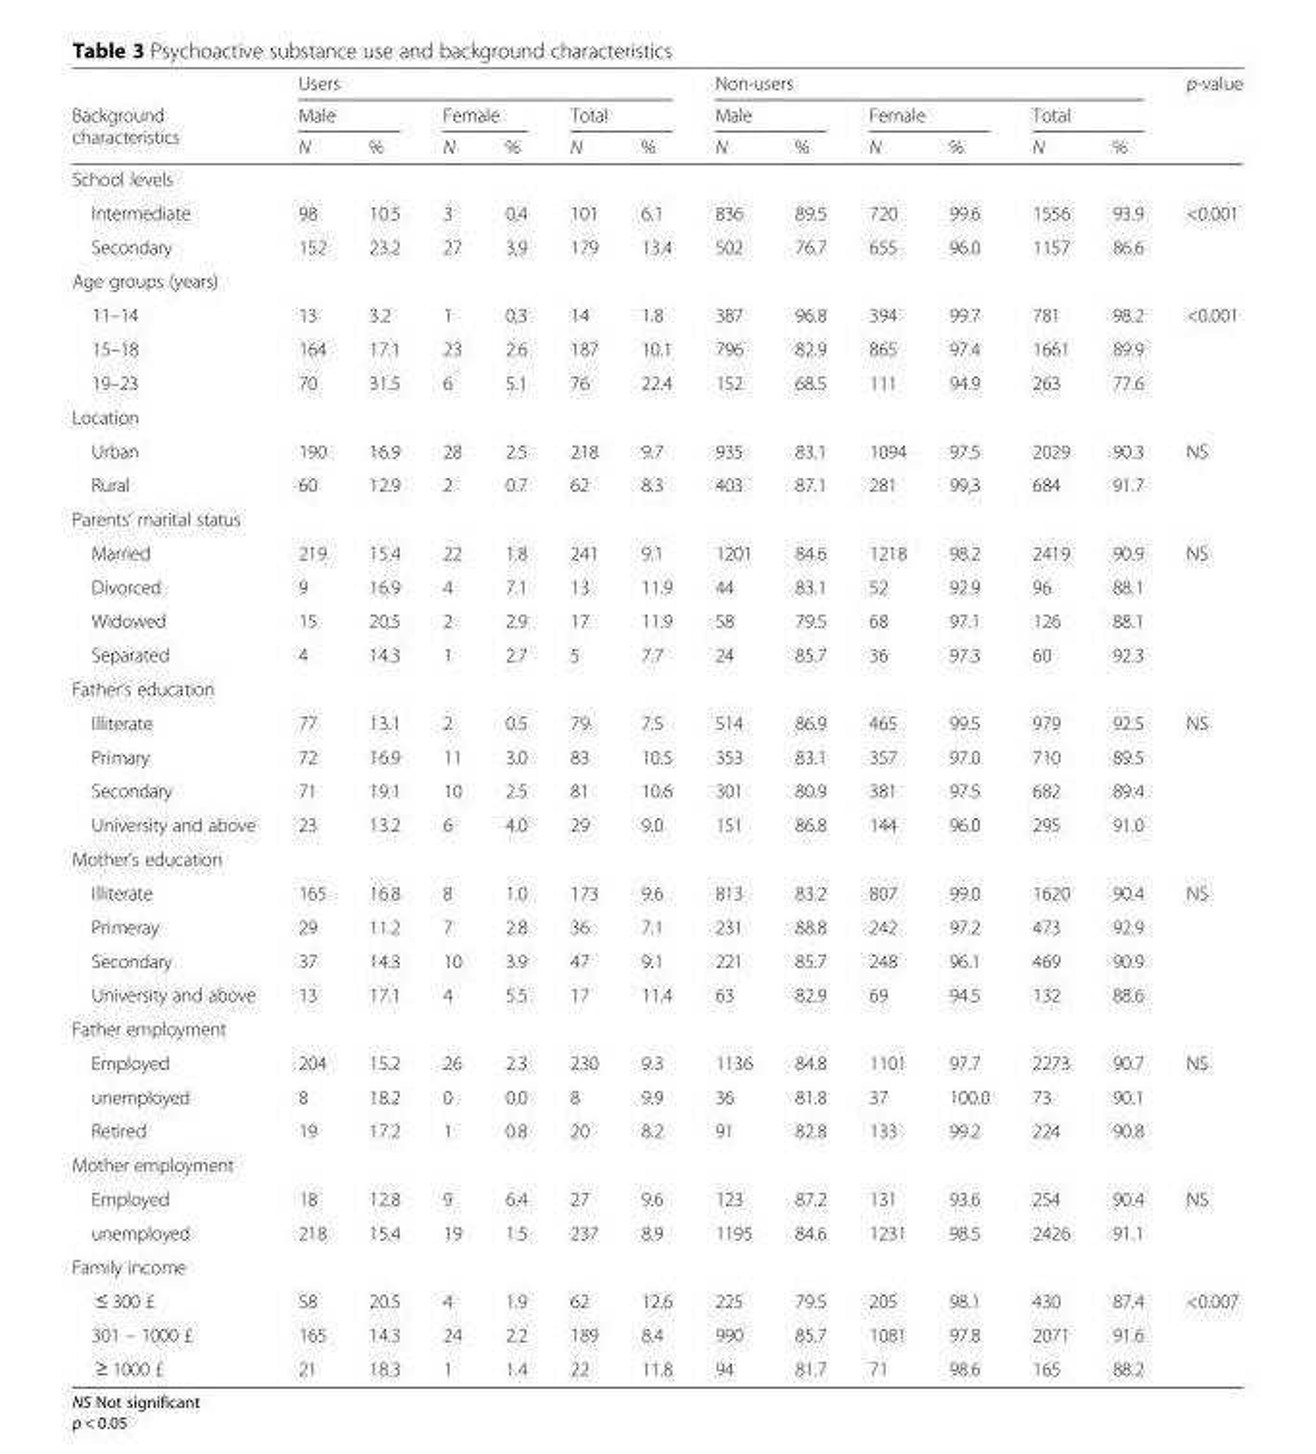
<table><thead><tr><td rowspan="3">Background characteristics</td><td colspan="6">Users</td><td colspan="6">Non-users</td><td rowspan="3">p-value</td></tr><tr><td colspan="2">Male</td><td colspan="2">Female</td><td colspan="2">Total</td><td colspan="2">Male</td><td colspan="2">Female</td><td colspan="2">Total</td></tr><tr><td>N</td><td>%</td><td>N</td><td>%</td><td>N</td><td>%</td><td>N</td><td>%</td><td>N</td><td>%</td><td>N</td><td>%</td></tr></thead><tbody><tr><td colspan="14">School levels</td></tr><tr><td>Intermediate</td><td>98</td><td>10.5</td><td>3</td><td>0,4</td><td>101</td><td>6.1</td><td>836</td><td>89.5</td><td>720</td><td>99.6</td><td>1556</td><td>93.9</td><td>&lt;0.001</td></tr><tr><td>Secondary</td><td>152</td><td>23.2</td><td>27</td><td>3,9</td><td>179</td><td>13.4</td><td>502</td><td>76.7</td><td>655</td><td>96.0</td><td>1157</td><td>86.6</td><td></td></tr><tr><td colspan="14">Age groups (years)</td></tr><tr><td>11–14</td><td>13</td><td>3.2</td><td>1</td><td>0,3</td><td>14</td><td>1.8</td><td>387</td><td>96.8</td><td>394</td><td>99.7</td><td>781</td><td>98.2</td><td>&lt;0.001</td></tr><tr><td>15–18</td><td>164</td><td>17.1</td><td>23</td><td>2.6</td><td>187</td><td>10.1</td><td>796</td><td>82.9</td><td>865</td><td>97.4</td><td>1661</td><td>89.9</td><td></td></tr><tr><td>19–23</td><td>70</td><td>31.5</td><td>6</td><td>5.1</td><td>76</td><td>22.4</td><td>152</td><td>68.5</td><td>111</td><td>94.9</td><td>263</td><td>77.6</td><td></td></tr><tr><td colspan="14">Location</td></tr><tr><td>Urban</td><td>190</td><td>16.9</td><td>28</td><td>2.5</td><td>218</td><td>9.7</td><td>935</td><td>83.1</td><td>1094</td><td>97.5</td><td>2029</td><td>90.3</td><td>NS</td></tr><tr><td>Rural</td><td>60</td><td>12.9</td><td>2</td><td>0.7</td><td>62</td><td>8.3</td><td>403</td><td>87.1</td><td>281</td><td>99,3</td><td>684</td><td>91.7</td><td></td></tr><tr><td colspan="14">Parents’ marital status</td></tr><tr><td>Married</td><td>219</td><td>15.4</td><td>22</td><td>1.8</td><td>241</td><td>9.1</td><td>1201</td><td>84.6</td><td>1218</td><td>98.2</td><td>2419</td><td>90.9</td><td>NS</td></tr><tr><td>Divorced</td><td>9</td><td>16.9</td><td>4</td><td>7.1</td><td>13</td><td>11.9</td><td>44</td><td>83.1</td><td>52</td><td>92.9</td><td>96</td><td>88.1</td><td></td></tr><tr><td>Widowed</td><td>15</td><td>20.5</td><td>2</td><td>2.9</td><td>17</td><td>11.9</td><td>58</td><td>79.5</td><td>68</td><td>97.1</td><td>126</td><td>88.1</td><td></td></tr><tr><td>Separated</td><td>4</td><td>14.3</td><td>1</td><td>2.7</td><td>5</td><td>7.7</td><td>24</td><td>85.7</td><td>36</td><td>97.3</td><td>60</td><td>92.3</td><td></td></tr><tr><td colspan="14">Father’s education</td></tr><tr><td>Illiterate</td><td>77</td><td>13.1</td><td>2</td><td>0.5</td><td>79</td><td>7.5</td><td>514</td><td>86.9</td><td>465</td><td>99.5</td><td>979</td><td>92.5</td><td>NS</td></tr><tr><td>Primary</td><td>72</td><td>16.9</td><td>11</td><td>3.0</td><td>83</td><td>10.5</td><td>353</td><td>83.1</td><td>357</td><td>97.0</td><td>710</td><td>89.5</td><td></td></tr><tr><td>Secondary</td><td>71</td><td>19.1</td><td>10</td><td>2.5</td><td>81</td><td>10.6</td><td>301</td><td>80.9</td><td>381</td><td>97.5</td><td>682</td><td>89.4</td><td></td></tr><tr><td>University and above</td><td>23</td><td>13.2</td><td>6</td><td>4.0</td><td>29</td><td>9.0</td><td>151</td><td>86.8</td><td>144</td><td>96.0</td><td>295</td><td>91.0</td><td></td></tr><tr><td colspan="14">Mother’s education</td></tr><tr><td>Illiterate</td><td>165</td><td>16.8</td><td>8</td><td>1.0</td><td>173</td><td>9.6</td><td>813</td><td>83.2</td><td>807</td><td>99.0</td><td>1620</td><td>90.4</td><td>NS</td></tr><tr><td>Primeray</td><td>29</td><td>11.2</td><td>7</td><td>2.8</td><td>36</td><td>7.1</td><td>231</td><td>88.8</td><td>242</td><td>97.2</td><td>473</td><td>92.9</td><td></td></tr><tr><td>Secondary</td><td>37</td><td>14.3</td><td>10</td><td>3.9</td><td>47</td><td>9.1</td><td>221</td><td>85.7</td><td>248</td><td>96.1</td><td>469</td><td>90.9</td><td></td></tr><tr><td>University and above</td><td>13</td><td>17.1</td><td>4</td><td>5.5</td><td>17</td><td>11.4</td><td>63</td><td>82.9</td><td>69</td><td>94.5</td><td>132</td><td>88.6</td><td></td></tr><tr><td colspan="14">Father employment</td></tr><tr><td>Employed</td><td>204</td><td>15.2</td><td>26</td><td>2.3</td><td>230</td><td>9.3</td><td>1136</td><td>84.8</td><td>1101</td><td>97.7</td><td>2273</td><td>90.7</td><td>NS</td></tr><tr><td>unemployed</td><td>8</td><td>18.2</td><td>0</td><td>0.0</td><td>8</td><td>9.9</td><td>36</td><td>81.8</td><td>37</td><td>100.0</td><td>73</td><td>90.1</td><td></td></tr><tr><td>Retired</td><td>19</td><td>17.2</td><td>1</td><td>0.8</td><td>20</td><td>8.2</td><td>91</td><td>82.8</td><td>133</td><td>99.2</td><td>224</td><td>90.8</td><td></td></tr><tr><td colspan="14">Mother employment</td></tr><tr><td>Employed</td><td>18</td><td>12.8</td><td>9</td><td>6.4</td><td>27</td><td>9.6</td><td>123</td><td>87.2</td><td>131</td><td>93.6</td><td>254</td><td>90.4</td><td>NS</td></tr><tr><td>unemployed</td><td>218</td><td>15.4</td><td>19</td><td>1.5</td><td>237</td><td>8.9</td><td>1195</td><td>84.6</td><td>1231</td><td>98.5</td><td>2426</td><td>91.1</td><td></td></tr><tr><td colspan="14">Family income</td></tr><tr><td>≤ 300 £</td><td>58</td><td>20.5</td><td>4</td><td>1.9</td><td>62</td><td>12.6</td><td>225</td><td>79.5</td><td>205</td><td>98.1</td><td>430</td><td>87.4</td><td>&lt;0.007</td></tr><tr><td>301 – 1000 £</td><td>165</td><td>14.3</td><td>24</td><td>2.2</td><td>189</td><td>8.4</td><td>990</td><td>85.7</td><td>1081</td><td>97.8</td><td>2071</td><td>91.6</td><td></td></tr><tr><td>≥ 1000 £</td><td>21</td><td>18.3</td><td>1</td><td>1.4</td><td>22</td><td>11.8</td><td>94</td><td>81.7</td><td>71</td><td>98.6</td><td>165</td><td>88.2</td><td></td></tr></tbody></table>